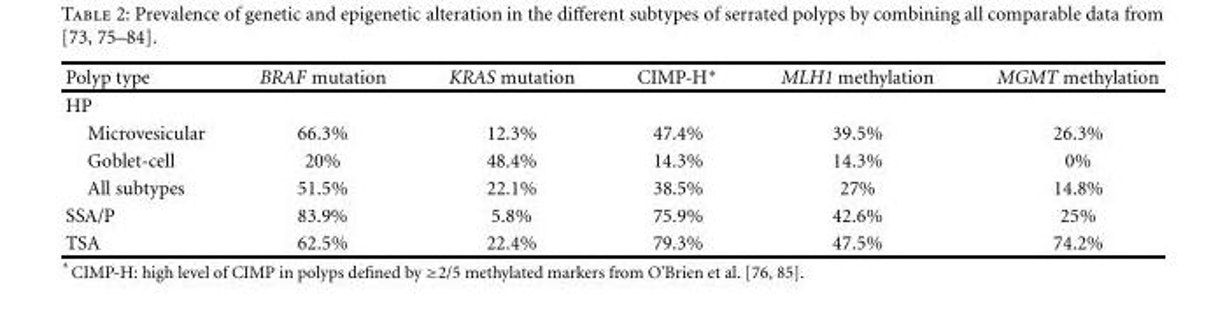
<table><thead><tr><td>Polyp type</td><td>BRAF mutation</td><td>KRAS mutation</td><td>CIMP-H∗</td><td>MLH1 methylation</td><td>MGMT methylation</td></tr></thead><tbody><tr><td colspan="6">HP</td></tr><tr><td>Microvesicular</td><td>66.3%</td><td>12.3%</td><td>47.4%</td><td>39.5%</td><td>26.3%</td></tr><tr><td>Goblet-cell</td><td>20%</td><td>48.4%</td><td>14.3%</td><td>14.3%</td><td>0%</td></tr><tr><td>All subtypes</td><td>51.5%</td><td>22.1%</td><td>38.5%</td><td>27%</td><td>14.8%</td></tr><tr><td>SSA/P</td><td>83.9%</td><td>5.8%</td><td>75.9%</td><td>42.6%</td><td>25%</td></tr><tr><td>TSA</td><td>62.5%</td><td>22.4%</td><td>79.3%</td><td>47.5%</td><td>74.2%</td></tr></tbody></table>